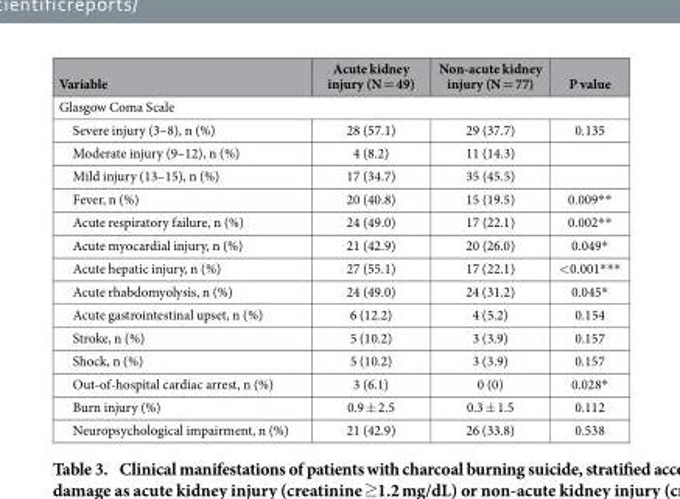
<table><thead><tr><td>Variable</td><td>Acute kidney injury (N = 49)</td><td>Non-acute kidney injury (N = 77)</td><td>P value</td></tr></thead><tbody><tr><td colspan="4">Glasgow Coma Scale</td></tr><tr><td>Severe injury (3–8), n (%)</td><td>28 (57.1)</td><td>29 (37.7)</td><td>0.135</td></tr><tr><td>Moderate injury (9–12), n (%)</td><td>4 (8.2)</td><td>11 (14.3)</td><td></td></tr><tr><td>Mild injury (13–15), n (%)</td><td>17 (34.7)</td><td>35 (45.5)</td><td></td></tr><tr><td>Fever, n (%)</td><td>20 (40.8)</td><td>15 (19.5)</td><td>0.009* *</td></tr><tr><td>Acute respiratory failure, n (%)</td><td>24 (49.0)</td><td>17 (22.1)</td><td>0.002* *</td></tr><tr><td>Acute myocardial injury, n (%)</td><td>21 (42.9)</td><td>20 (26.0)</td><td>0.049*</td></tr><tr><td>Acute hepatic injury, n (%)</td><td>27 (55.1)</td><td>17 (22.1)</td><td>&lt; 0.001* * *</td></tr><tr><td>Acute rhabdomyolysis, n (%)</td><td>24 (49.0)</td><td>24 (31.2)</td><td>0.045*</td></tr><tr><td>Acute gastrointestinal upset, n (%)</td><td>6 (12.2)</td><td>4 (5.2)</td><td>0.154</td></tr><tr><td>Stroke, n (%)</td><td>5 (10.2)</td><td>3 (3.9)</td><td>0.157</td></tr><tr><td>Shock, n (%)</td><td>5 (10.2)</td><td>3 (3.9)</td><td>0.157</td></tr><tr><td>Out-of-hospital cardiac arrest, n (%)</td><td>3 (6.1)</td><td>0 (0)</td><td>0.028*</td></tr><tr><td>Burn injury (%)</td><td>0.9 ± 2.5</td><td>0.3 ± 1.5</td><td>0.112</td></tr><tr><td>Neuropsychological impairment, n (%)</td><td>21 (42.9)</td><td>26 (33.8)</td><td>0.538</td></tr></tbody></table>